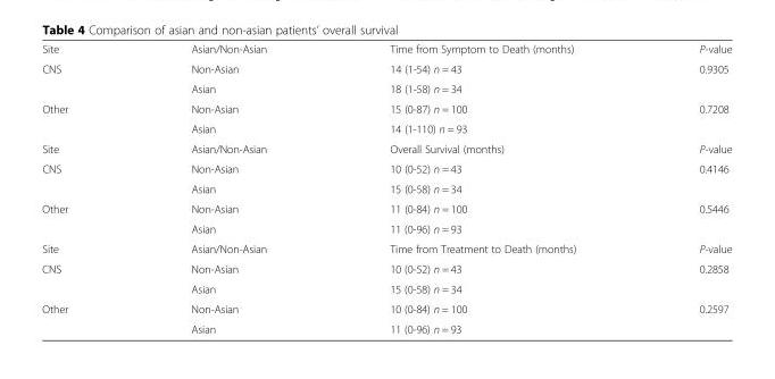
<table><tbody><tr><td>Site</td><td>Asian/Non-Asian</td><td>Time from Symptom to Death (months)</td><td>P-value</td></tr><tr><td rowspan="2">CNS</td><td>Non-Asian</td><td>14 (1-54) n = 43</td><td rowspan="2">0.9305</td></tr><tr><td>Asian</td><td>18 (1-58) n = 34</td></tr><tr><td rowspan="2">Other</td><td>Non-Asian</td><td>15 (0-87) n = 100</td><td rowspan="2">0.7208</td></tr><tr><td>Asian</td><td>14 (1-110) n = 93</td></tr><tr><td>Site</td><td>Asian/Non-Asian</td><td>Overall Survival (months)</td><td>P-value</td></tr><tr><td rowspan="2">CNS</td><td>Non-Asian</td><td>10 (0-52) n = 43</td><td rowspan="2">0.4146</td></tr><tr><td>Asian</td><td>15 (0-58) n = 34</td></tr><tr><td rowspan="2">Other</td><td>Non-Asian</td><td>11 (0-84) n = 100</td><td rowspan="2">0.5446</td></tr><tr><td>Asian</td><td>11 (0-96) n = 93</td></tr><tr><td>Site</td><td>Asian/Non-Asian</td><td>Time from Treatment to Death (months)</td><td>P-value</td></tr><tr><td rowspan="2">CNS</td><td>Non-Asian</td><td>10 (0-52) n = 43</td><td rowspan="2">0.2858</td></tr><tr><td>Asian</td><td>15 (0-58) n = 34</td></tr><tr><td rowspan="2">Other</td><td>Non-Asian</td><td>10 (0-84) n = 100</td><td rowspan="2">0.2597</td></tr><tr><td>Asian</td><td>11 (0-96) n = 93</td></tr></tbody></table>